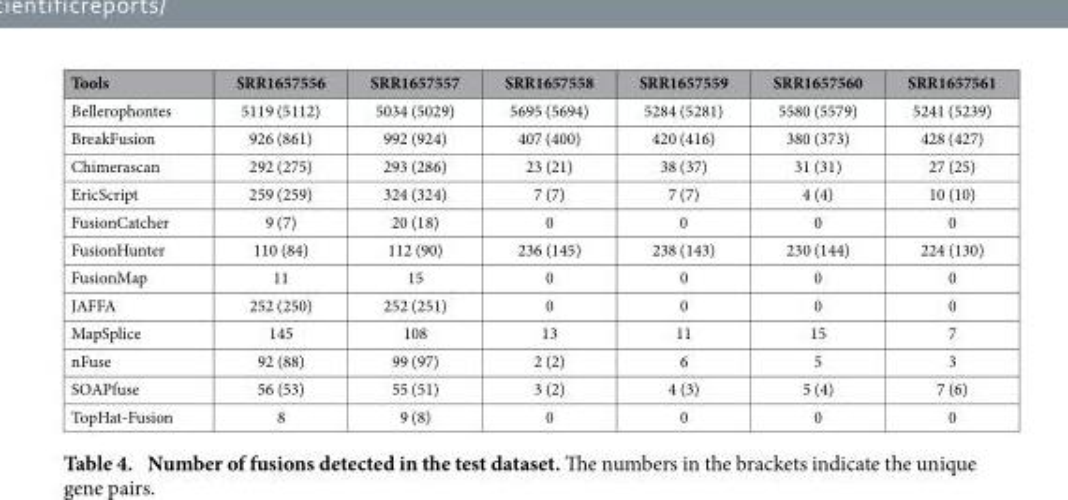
<table><thead><tr><td>Tools</td><td>SRR1657556</td><td>SRR1657557</td><td>SRR1657558</td><td>SRR1657559</td><td>SRR1657560</td><td>SRR1657561</td></tr></thead><tbody><tr><td>Bellerophontes</td><td>5119 (5112)</td><td>5034 (5029)</td><td>5695 (5694)</td><td>5284 (5281)</td><td>5580 (5579)</td><td>5241 (5239)</td></tr><tr><td>BreakFusion</td><td>926 (861)</td><td>992 (924)</td><td>407 (400)</td><td>420 (416)</td><td>380 (373)</td><td>428 (427)</td></tr><tr><td>Chimerascan</td><td>292 (275)</td><td>293 (286)</td><td>23 (21)</td><td>38 (37)</td><td>31 (31)</td><td>27 (25)</td></tr><tr><td>EricScript</td><td>259 (259)</td><td>324 (324)</td><td>7 (7)</td><td>7 (7)</td><td>4 (4)</td><td>10 (10)</td></tr><tr><td>FusionCatcher</td><td>9 (7)</td><td>20 (18)</td><td>0</td><td>0</td><td>0</td><td>0</td></tr><tr><td>FusionHunter</td><td>110 (84)</td><td>112 (90)</td><td>236 (145)</td><td>238 (143)</td><td>230 (144)</td><td>224 (130)</td></tr><tr><td>FusionMap</td><td>11</td><td>15</td><td>0</td><td>0</td><td>0</td><td>0</td></tr><tr><td>JAFFA</td><td>252 (250)</td><td>252 (251)</td><td>0</td><td>0</td><td>0</td><td>0</td></tr><tr><td>MapSplice</td><td>145</td><td>108</td><td>13</td><td>11</td><td>15</td><td>7</td></tr><tr><td>nFuse</td><td>92 (88)</td><td>99 (97)</td><td>2 (2)</td><td>6</td><td>5</td><td>3</td></tr><tr><td>SOAPfuse</td><td>56 (53)</td><td>55 (51)</td><td>3 (2)</td><td>4 (3)</td><td>5 (4)</td><td>7 (6)</td></tr><tr><td>TopHat-Fusion</td><td>8</td><td>9 (8)</td><td>0</td><td>0</td><td>0</td><td>0</td></tr></tbody></table>